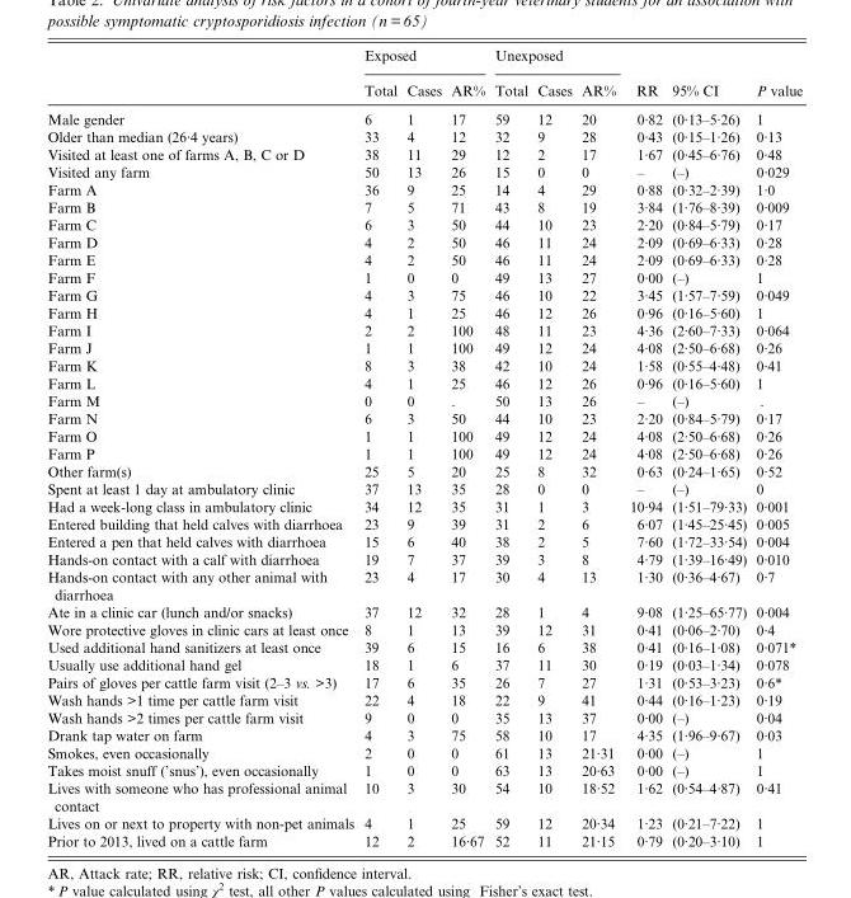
<table><thead><tr><td rowspan="2"></td><td colspan="3">Exposed</td><td colspan="3">Unexposed</td><td rowspan="2">RR</td><td rowspan="2">95% CI</td><td rowspan="2">P value</td></tr><tr><td>Total</td><td>Cases</td><td>AR%</td><td>Total</td><td>Cases</td><td>AR%</td></tr></thead><tbody><tr><td>Male gender</td><td>6</td><td>1</td><td>17</td><td>59</td><td>12</td><td>20</td><td>0·82</td><td>(0·13–5·26)</td><td>1</td></tr><tr><td>Older than median (26·4 years)</td><td>33</td><td>4</td><td>12</td><td>32</td><td>9</td><td>28</td><td>0·43</td><td>(0·15–1·26)</td><td>0·13</td></tr><tr><td>Visited at least one of farms A, B, C or D</td><td>38</td><td>11</td><td>29</td><td>12</td><td>2</td><td>17</td><td>1·67</td><td>(0·45–6·76)</td><td>0·48</td></tr><tr><td>Visited any farm</td><td>50</td><td>13</td><td>26</td><td>15</td><td>0</td><td>0</td><td>–</td><td>(–)</td><td>0·029</td></tr><tr><td>Farm A</td><td>36</td><td>9</td><td>25</td><td>14</td><td>4</td><td>29</td><td>0·88</td><td>(0·32–2·39)</td><td>1·0</td></tr><tr><td>Farm B</td><td>7</td><td>5</td><td>71</td><td>43</td><td>8</td><td>19</td><td>3·84</td><td>(1·76–8·39)</td><td>0·009</td></tr><tr><td>Farm C</td><td>6</td><td>3</td><td>50</td><td>44</td><td>10</td><td>23</td><td>2·20</td><td>(0·84–5·79)</td><td>0·17</td></tr><tr><td>Farm D</td><td>4</td><td>2</td><td>50</td><td>46</td><td>11</td><td>24</td><td>2·09</td><td>(0·69–6·33)</td><td>0·28</td></tr><tr><td>Farm E</td><td>4</td><td>2</td><td>50</td><td>46</td><td>11</td><td>24</td><td>2·09</td><td>(0·69–6·33)</td><td>0·28</td></tr><tr><td>Farm F</td><td>1</td><td>0</td><td>0</td><td>49</td><td>13</td><td>27</td><td>0·00</td><td>(–)</td><td>1</td></tr><tr><td>Farm G</td><td>4</td><td>3</td><td>75</td><td>46</td><td>10</td><td>22</td><td>3·45</td><td>(1·57–7·59)</td><td>0·049</td></tr><tr><td>Farm H</td><td>4</td><td>1</td><td>25</td><td>46</td><td>12</td><td>26</td><td>0·96</td><td>(0·16–5·60)</td><td>1</td></tr><tr><td>Farm I</td><td>2</td><td>2</td><td>100</td><td>48</td><td>11</td><td>23</td><td>4·36</td><td>(2·60–7·33)</td><td>0·064</td></tr><tr><td>Farm J</td><td>1</td><td>1</td><td>100</td><td>49</td><td>12</td><td>24</td><td>4·08</td><td>(2·50–6·68)</td><td>0·26</td></tr><tr><td>Farm K</td><td>8</td><td>3</td><td>38</td><td>42</td><td>10</td><td>24</td><td>1·58</td><td>(0·55–4·48)</td><td>0·41</td></tr><tr><td>Farm L</td><td>4</td><td>1</td><td>25</td><td>46</td><td>12</td><td>26</td><td>0·96</td><td>(0·16–5·60)</td><td>1</td></tr><tr><td>Farm M</td><td>0</td><td>0</td><td>.</td><td>50</td><td>13</td><td>26</td><td>–</td><td>(–)</td><td>.</td></tr><tr><td>Farm N</td><td>6</td><td>3</td><td>50</td><td>44</td><td>10</td><td>23</td><td>2·20</td><td>(0·84–5·79)</td><td>0·17</td></tr><tr><td>Farm O</td><td>1</td><td>1</td><td>100</td><td>49</td><td>12</td><td>24</td><td>4·08</td><td>(2·50–6·68)</td><td>0·26</td></tr><tr><td>Farm P</td><td>1</td><td>1</td><td>100</td><td>49</td><td>12</td><td>24</td><td>4·08</td><td>(2·50–6·68)</td><td>0·26</td></tr><tr><td>Other farm(s)</td><td>25</td><td>5</td><td>20</td><td>25</td><td>8</td><td>32</td><td>0·63</td><td>(0·24–1·65)</td><td>0·52</td></tr><tr><td>Spent at least 1 day at ambulatory clinic</td><td>37</td><td>13</td><td>35</td><td>28</td><td>0</td><td>0</td><td>–</td><td>(–)</td><td>0</td></tr><tr><td>Had a week-long class in ambulatory clinic</td><td>34</td><td>12</td><td>35</td><td>31</td><td>1</td><td>3</td><td>10·94</td><td>(1·51–79·33)</td><td>0·001</td></tr><tr><td>Entered building that held calves with diarrhoea</td><td>23</td><td>9</td><td>39</td><td>31</td><td>2</td><td>6</td><td>6·07</td><td>(1·45–25·45)</td><td>0·005</td></tr><tr><td>Entered a pen that held calves with diarrhoea</td><td>15</td><td>6</td><td>40</td><td>38</td><td>2</td><td>5</td><td>7·60</td><td>(1·72–33·54)</td><td>0·004</td></tr><tr><td>Hands-on contact with a calf with diarrhoea</td><td>19</td><td>7</td><td>37</td><td>39</td><td>3</td><td>8</td><td>4·79</td><td>(1·39–16·49)</td><td>0·010</td></tr><tr><td>Hands-on contact with any other animal with diarrhoea</td><td>23</td><td>4</td><td>17</td><td>30</td><td>4</td><td>13</td><td>1·30</td><td>(0·36–4·67)</td><td>0·7</td></tr><tr><td>Ate in a clinic car (lunch and/or snacks)</td><td>37</td><td>12</td><td>32</td><td>28</td><td>1</td><td>4</td><td>9·08</td><td>(1·25–65·77)</td><td>0·004</td></tr><tr><td>Wore protective gloves in clinic cars at least once</td><td>8</td><td>1</td><td>13</td><td>39</td><td>12</td><td>31</td><td>0·41</td><td>(0·06–2·70)</td><td>0·4</td></tr><tr><td>Used additional hand sanitizers at least once</td><td>39</td><td>6</td><td>15</td><td>16</td><td>6</td><td>38</td><td>0·41</td><td>(0·16–1·08)</td><td>0·071*</td></tr><tr><td>Usually use additional hand gel</td><td>18</td><td>1</td><td>6</td><td>37</td><td>11</td><td>30</td><td>0·19</td><td>(0·03–1·34)</td><td>0·078</td></tr><tr><td>Pairs of gloves per cattle farm visit (2–3 vs. &gt;3)</td><td>17</td><td>6</td><td>35</td><td>26</td><td>7</td><td>27</td><td>1·31</td><td>(0·53–3·23)</td><td>0·6*</td></tr><tr><td>Wash hands &gt;1 time per cattle farm visit</td><td>22</td><td>4</td><td>18</td><td>22</td><td>9</td><td>41</td><td>0·44</td><td>(0·16–1·23)</td><td>0·19</td></tr><tr><td>Wash hands &gt;2 times per cattle farm visit</td><td>9</td><td>0</td><td>0</td><td>35</td><td>13</td><td>37</td><td>0·00</td><td>(–)</td><td>0·04</td></tr><tr><td>Drank tap water on farm</td><td>4</td><td>3</td><td>75</td><td>58</td><td>10</td><td>17</td><td>4·35</td><td>(1·96–9·67)</td><td>0·03</td></tr><tr><td>Smokes, even occasionally</td><td>2</td><td>0</td><td>0</td><td>61</td><td>13</td><td>21·31</td><td>0·00</td><td>(–)</td><td>1</td></tr><tr><td>Takes moist snuff (’snus’), even occasionally</td><td>1</td><td>0</td><td>0</td><td>63</td><td>13</td><td>20·63</td><td>0·00</td><td>(–)</td><td>1</td></tr><tr><td>Lives with someone who has professional animal contact</td><td>10</td><td>3</td><td>30</td><td>54</td><td>10</td><td>18·52</td><td>1·62</td><td>(0·54–4·87)</td><td>0·41</td></tr><tr><td>Lives on or next to property with non-pet animals</td><td>4</td><td>1</td><td>25</td><td>59</td><td>12</td><td>20·34</td><td>1·23</td><td>(0·21–7·22)</td><td>1</td></tr><tr><td>Prior to 2013, lived on a cattle farm</td><td>12</td><td>2</td><td>16·67</td><td>52</td><td>11</td><td>21·15</td><td>0·79</td><td>(0·20–3·10)</td><td>1</td></tr></tbody></table>